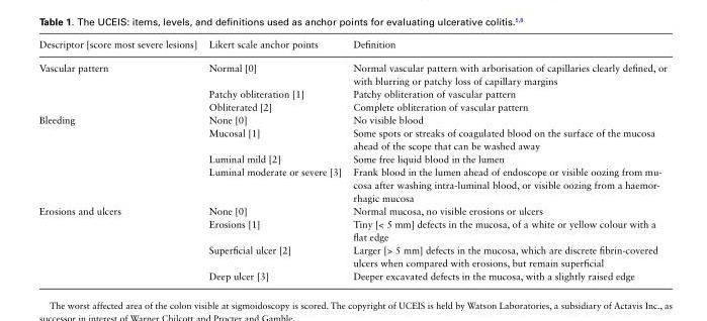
<table><thead><tr><td>Descriptor [score most severe lesions]</td><td>Likert scale anchor points</td><td>Definition</td></tr></thead><tbody><tr><td rowspan="3">Vascular pattern</td><td>Normal [0]</td><td>Normal vascular pattern with arborisation of capillaries clearly defined, or with blurring or patchy loss of capillary margins</td></tr><tr><td>Patchy obliteration [1]</td><td>Patchy obliteration of vascular pattern</td></tr><tr><td>Obliterated [2]</td><td>Complete obliteration of vascular pattern</td></tr><tr><td rowspan="4">Bleeding</td><td>None [0]</td><td>No visible blood</td></tr><tr><td>Mucosal [1]</td><td>Some spots or streaks of coagulated blood on the surface of the mucosa ahead of the scope that can be washed away</td></tr><tr><td>Luminal mild [2]</td><td>Some free liquid blood in the lumen</td></tr><tr><td>Luminal moderate or severe [3]</td><td>Frank blood in the lumen ahead of endoscope or visible oozing from mu- cosa after washing intra-luminal blood, or visible oozing from a haemor- rhagic mucosa</td></tr><tr><td rowspan="4">Erosions and ulcers</td><td>None [0]</td><td>Normal mucosa, no visible erosions or ulcers</td></tr><tr><td>Erosions [1]</td><td>Tiny [&lt; 5 mm] defects in the mucosa, of a white or yellow colour with a flat edge</td></tr><tr><td>Superficial ulcer [2]</td><td>Larger [&gt; 5 mm] defects in the mucosa, which are discrete fibrin-covered ulcers when compared with erosions, but remain superficial</td></tr><tr><td>Deep ulcer [3]</td><td>Deeper excavated defects in the mucosa, with a slightly raised edge</td></tr></tbody></table>